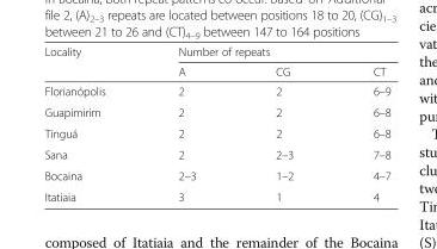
<table><thead><tr><td rowspan="2">Locality</td><td colspan="3">Number of repeats</td></tr><tr><td>A</td><td>CG</td><td>CT</td></tr></thead><tbody><tr><td>Florianópolis</td><td>2</td><td>2</td><td>6–9</td></tr><tr><td>Guapimirim</td><td>2</td><td>2</td><td>6–8</td></tr><tr><td>Tinguá</td><td>2</td><td>2</td><td>6–8</td></tr><tr><td>Sana</td><td>2</td><td>2–3</td><td>7–8</td></tr><tr><td>Bocaina</td><td>2–3</td><td>1–2</td><td>4–7</td></tr><tr><td>Itatiaia</td><td>3</td><td>1</td><td>4</td></tr></tbody></table>